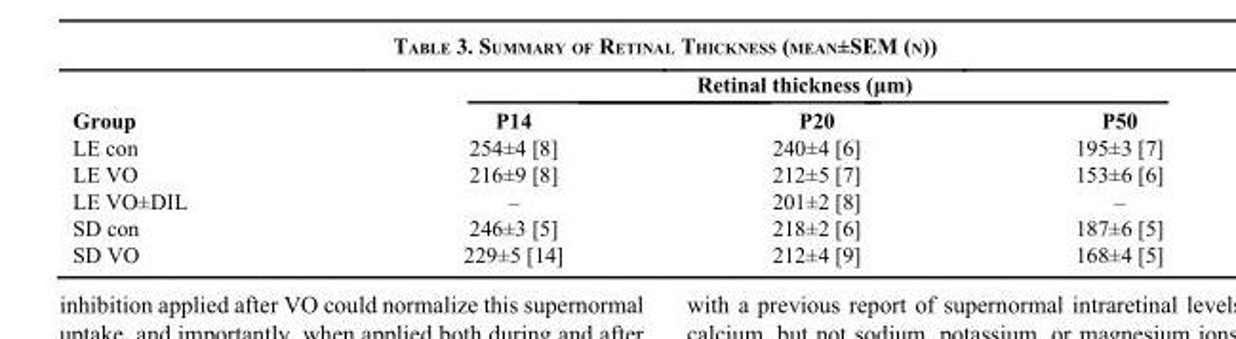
<table><thead><tr><td rowspan="2">Group</td><td colspan="3">Retinal thickness (μm)</td></tr><tr><td>P14</td><td>P20</td><td>P50</td></tr></thead><tbody><tr><td>LE con</td><td>254±4 [8]</td><td>240±4 [6]</td><td>195±3 [7]</td></tr><tr><td>LE VO</td><td>216±9 [8]</td><td>212±5 [7]</td><td>153±6 [6]</td></tr><tr><td>LE VO±DIL</td><td>–</td><td>201±2 [8]</td><td>–</td></tr><tr><td>SD con</td><td>246±3 [5]</td><td>218±2 [6]</td><td>187±6 [5]</td></tr><tr><td>SD VO</td><td>229±5 [14]</td><td>212±4 [9]</td><td>168±4 [5]</td></tr></tbody></table>